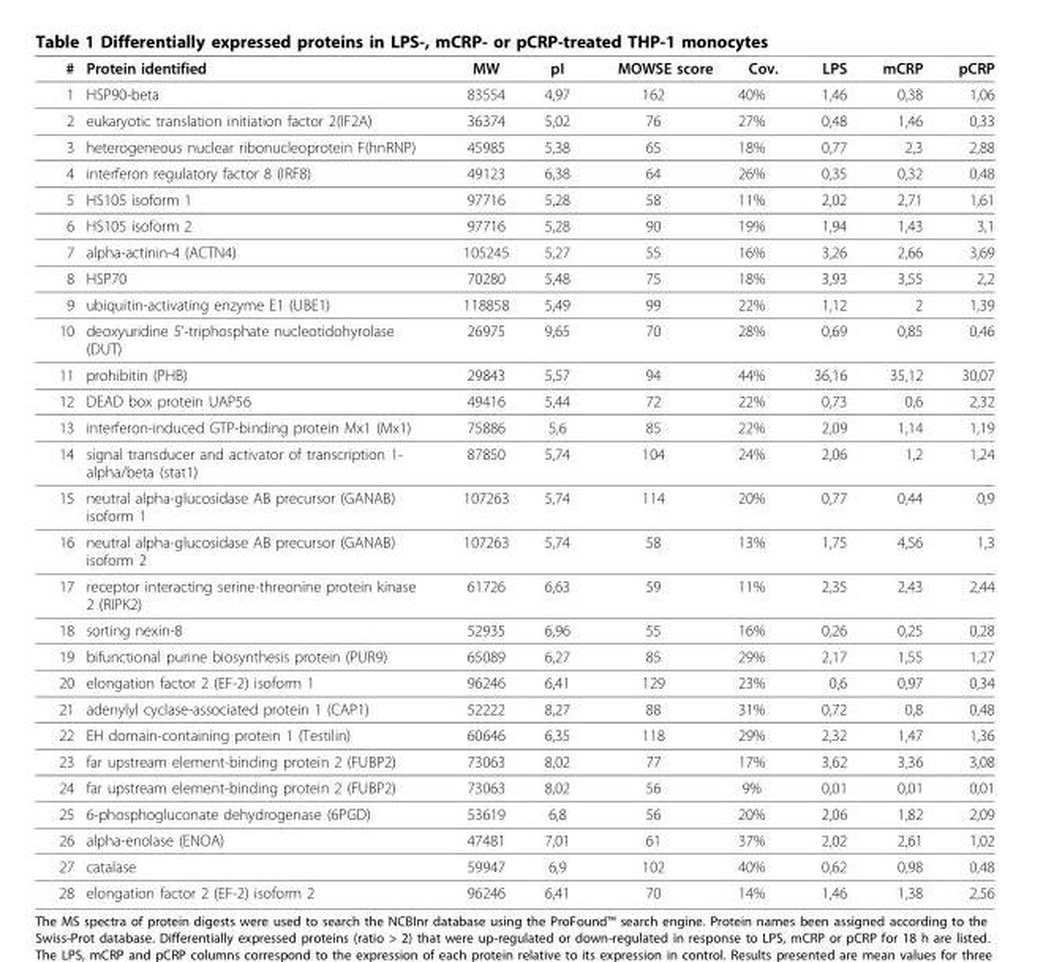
<table><thead><tr><td>#</td><td>Protein identified</td><td>MW</td><td>pI</td><td>MOWSE score</td><td>Cov.</td><td>LPS</td><td>mCRP</td><td>pCRP</td></tr></thead><tbody><tr><td>1</td><td>HSP90-beta</td><td>83554</td><td>4,97</td><td>162</td><td>40%</td><td>1,46</td><td>0,38</td><td>1,06</td></tr><tr><td>2</td><td>eukaryotic translation initiation factor 2(IF2A)</td><td>36374</td><td>5,02</td><td>76</td><td>27%</td><td>0,48</td><td>1,46</td><td>0,33</td></tr><tr><td>3</td><td>heterogeneous nuclear ribonucleoprotein F(hnRNP)</td><td>45985</td><td>5,38</td><td>65</td><td>18%</td><td>0,77</td><td>2,3</td><td>2,88</td></tr><tr><td>4</td><td>interferon regulatory factor 8 (IRF8)</td><td>49123</td><td>6,38</td><td>64</td><td>26%</td><td>0,35</td><td>0,32</td><td>0,48</td></tr><tr><td>5</td><td>HS105 isoform 1</td><td>97716</td><td>5,28</td><td>58</td><td>11%</td><td>2,02</td><td>2,71</td><td>1,61</td></tr><tr><td>6</td><td>HS105 isoform 2</td><td>97716</td><td>5,28</td><td>90</td><td>19%</td><td>1,94</td><td>1,43</td><td>3,1</td></tr><tr><td>7</td><td>alpha-actinin-4 (ACTN4)</td><td>105245</td><td>5,27</td><td>55</td><td>16%</td><td>3,26</td><td>2,66</td><td>3,69</td></tr><tr><td>8</td><td>HSP70</td><td>70280</td><td>5,48</td><td>75</td><td>18%</td><td>3,93</td><td>3,55</td><td>2,2</td></tr><tr><td>9</td><td>ubiquitin-activating enzyme E1 (UBE1)</td><td>118858</td><td>5,49</td><td>99</td><td>22%</td><td>1,12</td><td>2</td><td>1,39</td></tr><tr><td>10</td><td>deoxyuridine 5’-triphosphate nucleotidohyrolase (DUT)</td><td>26975</td><td>9,65</td><td>70</td><td>28%</td><td>0,69</td><td>0,85</td><td>0,46</td></tr><tr><td>11</td><td>prohibitin (PHB)</td><td>29843</td><td>5,57</td><td>94</td><td>44%</td><td>36,16</td><td>35,12</td><td>30,07</td></tr><tr><td>12</td><td>DEAD box protein UAP56</td><td>49416</td><td>5,44</td><td>72</td><td>22%</td><td>0,73</td><td>0,6</td><td>2,32</td></tr><tr><td>13</td><td>interferon-induced GTP-binding protein Mx1 (Mx1)</td><td>75886</td><td>5,6</td><td>85</td><td>22%</td><td>2,09</td><td>1,14</td><td>1,19</td></tr><tr><td>14</td><td>signal transducer and activator of transcription 1- alpha/beta (stat1)</td><td>87850</td><td>5,74</td><td>104</td><td>24%</td><td>2,06</td><td>1,2</td><td>1,24</td></tr><tr><td>15</td><td>neutral alpha-glucosidase AB precursor (GANAB) isoform 1</td><td>107263</td><td>5,74</td><td>114</td><td>20%</td><td>0,77</td><td>0,44</td><td>0,9</td></tr><tr><td>16</td><td>neutral alpha-glucosidase AB precursor (GANAB) isoform 2</td><td>107263</td><td>5,74</td><td>58</td><td>13%</td><td>1,75</td><td>4,56</td><td>1,3</td></tr><tr><td>17</td><td>receptor interacting serine-threonine protein kinase 2 (RIPK2)</td><td>61726</td><td>6,63</td><td>59</td><td>11%</td><td>2,35</td><td>2,43</td><td>2,44</td></tr><tr><td>18</td><td>sorting nexin-8</td><td>52935</td><td>6,96</td><td>55</td><td>16%</td><td>0,26</td><td>0,25</td><td>0,28</td></tr><tr><td>19</td><td>bifunctional purine biosynthesis protein (PUR9)</td><td>65089</td><td>6,27</td><td>85</td><td>29%</td><td>2,17</td><td>1,55</td><td>1,27</td></tr><tr><td>20</td><td>elongation factor 2 (EF-2) isoform 1</td><td>96246</td><td>6,41</td><td>129</td><td>23%</td><td>0,6</td><td>0,97</td><td>0,34</td></tr><tr><td>21</td><td>adenylyl cyclase-associated protein 1 (CAP1)</td><td>52222</td><td>8,27</td><td>88</td><td>31%</td><td>0,72</td><td>0,8</td><td>0,48</td></tr><tr><td>22</td><td>EH domain-containing protein 1 (Testilin)</td><td>60646</td><td>6,35</td><td>118</td><td>29%</td><td>2,32</td><td>1,47</td><td>1,36</td></tr><tr><td>23</td><td>far upstream element-binding protein 2 (FUBP2)</td><td>73063</td><td>8,02</td><td>77</td><td>17%</td><td>3,62</td><td>3,36</td><td>3,08</td></tr><tr><td>24</td><td>far upstream element-binding protein 2 (FUBP2)</td><td>73063</td><td>8,02</td><td>56</td><td>9%</td><td>0,01</td><td>0,01</td><td>0,01</td></tr><tr><td>25</td><td>6-phosphogluconate dehydrogenase (6PGD)</td><td>53619</td><td>6,8</td><td>56</td><td>20%</td><td>2,06</td><td>1,82</td><td>2,09</td></tr><tr><td>26</td><td>alpha-enolase (ENOA)</td><td>47481</td><td>7,01</td><td>61</td><td>37%</td><td>2,02</td><td>2,61</td><td>1,02</td></tr><tr><td>27</td><td>catalase</td><td>59947</td><td>6,9</td><td>102</td><td>40%</td><td>0,62</td><td>0,98</td><td>0,48</td></tr><tr><td>28</td><td>elongation factor 2 (EF-2) isoform 2</td><td>96246</td><td>6,41</td><td>70</td><td>14%</td><td>1,46</td><td>1,38</td><td>2,56</td></tr></tbody></table>